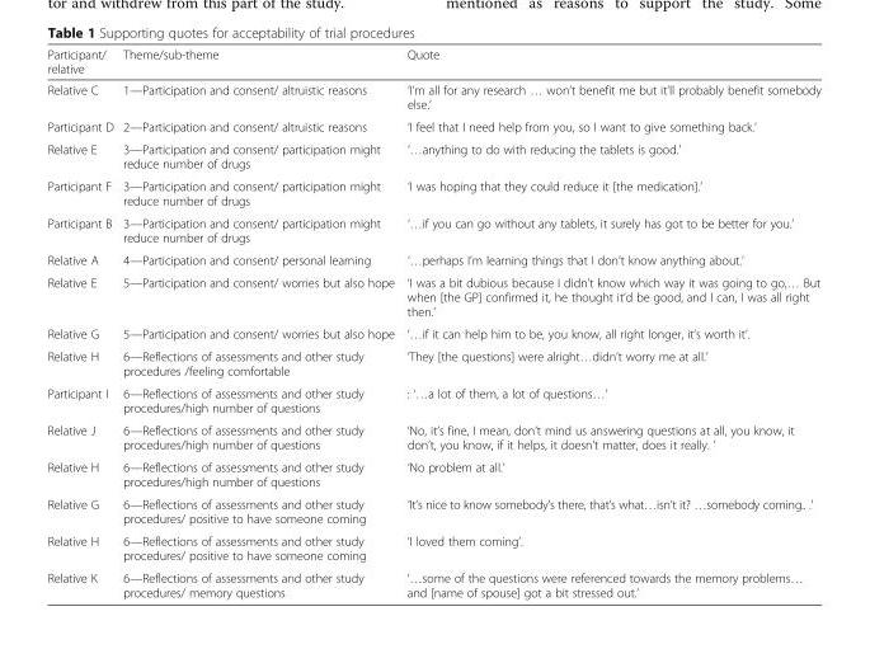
<table><thead><tr><td>Participant/ relative</td><td>Theme/sub-theme</td><td>Quote</td></tr></thead><tbody><tr><td>Relative C</td><td>1—Participation and consent/ altruistic reasons</td><td>‘I’m all for any research … won’t benefit me but it’ll probably benefit somebody else.’</td></tr><tr><td>Participant D</td><td>2—Participation and consent/ altruistic reasons</td><td>‘I feel that I need help from you, so I want to give something back.’</td></tr><tr><td>Relative E</td><td>3—Participation and consent/ participation might reduce number of drugs</td><td>‘…anything to do with reducing the tablets is good.’</td></tr><tr><td>Participant F</td><td>3—Participation and consent/ participation might reduce number of drugs</td><td>‘I was hoping that they could reduce it [the medication].’</td></tr><tr><td>Participant B</td><td>3—Participation and consent/ participation might reduce number of drugs</td><td>‘…if you can go without any tablets, it surely has got to be better for you.’</td></tr><tr><td>Relative A</td><td>4—Participation and consent/ personal learning</td><td>‘…perhaps I’m learning things that I don’t know anything about.’</td></tr><tr><td>Relative E</td><td>5—Participation and consent/ worries but also hope</td><td>‘I was a bit dubious because I didn’t know which way it was going to go,… But when [the GP] confirmed it, he thought it’d be good, and I can, I was all right then.’</td></tr><tr><td>Relative G</td><td>5—Participation and consent/ worries but also hope</td><td>‘…if it can help him to be, you know, all right longer, it’s worth it’.</td></tr><tr><td>Relative H</td><td>6—Reflections of assessments and other study procedures /feeling comfortable</td><td>‘They [the questions] were alright…didn’t worry me at all.’</td></tr><tr><td>Participant I</td><td>6—Reflections of assessments and other study procedures/high number of questions</td><td>: ‘…a lot of them, a lot of questions…’</td></tr><tr><td>Relative J</td><td>6—Reflections of assessments and other study procedures/high number of questions</td><td>‘No, it’s fine, I mean, don’t mind us answering questions at all, you know, it don’t, you know, if it helps, it doesn’t matter, does it really. ’</td></tr><tr><td>Relative H</td><td>6—Reflections of assessments and other study procedures/high number of questions</td><td>‘No problem at all.’</td></tr><tr><td>Relative G</td><td>6—Reflections of assessments and other study procedures/ positive to have someone coming</td><td>‘It’s nice to know somebody’s there, that’s what…isn’t it? …somebody coming.. .’</td></tr><tr><td>Relative H</td><td>6—Reflections of assessments and other study procedures/ positive to have someone coming</td><td>‘I loved them coming’.</td></tr><tr><td>Relative K</td><td>6—Reflections of assessments and other study procedures/ memory questions</td><td>‘…some of the questions were referenced towards the memory problems… and [name of spouse] got a bit stressed out.’</td></tr></tbody></table>